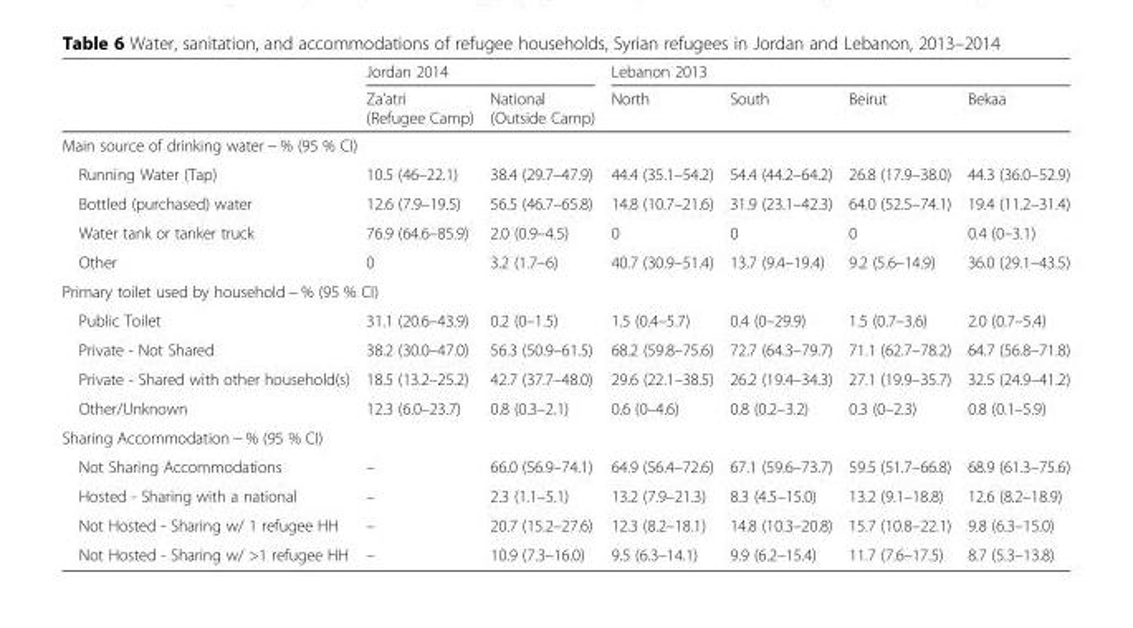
<table><thead><tr><td rowspan="2"></td><td colspan="2">Jordan 2014</td><td colspan="4">Lebanon 2013</td></tr><tr><td>Za’atri (Refugee Camp)</td><td>National (Outside Camp)</td><td>North</td><td>South</td><td>Beirut</td><td>Bekaa</td></tr></thead><tbody><tr><td colspan="7">Main source of drinking water − % (95 % CI)</td></tr><tr><td>Running Water (Tap)</td><td>10.5 (46–22.1)</td><td>38.4 (29.7–47.9)</td><td>44.4 (35.1–54.2)</td><td>54.4 (44.2–64.2)</td><td>26.8 (17.9–38.0)</td><td>44.3 (36.0–52.9)</td></tr><tr><td>Bottled (purchased) water</td><td>12.6 (7.9–19.5)</td><td>56.5 (46.7–65.8)</td><td>14.8 (10.7–21.6)</td><td>31.9 (23.1–42.3)</td><td>64.0 (52.5–74.1)</td><td>19.4 (11.2–31.4)</td></tr><tr><td>Water tank or tanker truck</td><td>76.9 (64.6–85.9)</td><td>2.0 (0.9–4.5)</td><td>0</td><td>0</td><td>0</td><td>0.4 (0–3.1)</td></tr><tr><td>Other</td><td>0</td><td>3.2 (1.7–6)</td><td>40.7 (30.9–51.4)</td><td>13.7 (9.4–19.4)</td><td>9.2 (5.6–14.9)</td><td>36.0 (29.1–43.5)</td></tr><tr><td colspan="7">Primary toilet used by household − % (95 % CI)</td></tr><tr><td>Public Toilet</td><td>31.1 (20.6–43.9)</td><td>0.2 (0–1.5)</td><td>1.5 (0.4–5.7)</td><td>0.4 (0–29.9)</td><td>1.5 (0.7–3.6)</td><td>2.0 (0.7–5.4)</td></tr><tr><td>Private - Not Shared</td><td>38.2 (30.0–47.0)</td><td>56.3 (50.9–61.5)</td><td>68.2 (59.8–75.6)</td><td>72.7 (64.3–79.7)</td><td>71.1 (62.7–78.2)</td><td>64.7 (56.8–71.8)</td></tr><tr><td>Private - Shared with other household(s)</td><td>18.5 (13.2–25.2)</td><td>42.7 (37.7–48.0)</td><td>29.6 (22.1–38.5)</td><td>26.2 (19.4–34.3)</td><td>27.1 (19.9–35.7)</td><td>32.5 (24.9–41.2)</td></tr><tr><td>Other/Unknown</td><td>12.3 (6.0–23.7)</td><td>0.8 (0.3–2.1)</td><td>0.6 (0–4.6)</td><td>0.8 (0.2–3.2)</td><td>0.3 (0–2.3)</td><td>0.8 (0.1–5.9)</td></tr><tr><td colspan="7">Sharing Accommodation − % (95 % CI)</td></tr><tr><td>Not Sharing Accommodations</td><td>–</td><td>66.0 (56.9–74.1)</td><td>64.9 (56.4–72.6)</td><td>67.1 (59.6–73.7)</td><td>59.5 (51.7–66.8)</td><td>68.9 (61.3–75.6)</td></tr><tr><td>Hosted - Sharing with a national</td><td>–</td><td>2.3 (1.1–5.1)</td><td>13.2 (7.9–21.3)</td><td>8.3 (4.5–15.0)</td><td>13.2 (9.1–18.8)</td><td>12.6 (8.2–18.9)</td></tr><tr><td>Not Hosted - Sharing w/ 1 refugee HH</td><td>–</td><td>20.7 (15.2–27.6)</td><td>12.3 (8.2–18.1)</td><td>14.8 (10.3–20.8)</td><td>15.7 (10.8–22.1)</td><td>9.8 (6.3–15.0)</td></tr><tr><td>Not Hosted - Sharing w/ &gt;1 refugee HH</td><td>–</td><td>10.9 (7.3–16.0)</td><td>9.5 (6.3–14.1)</td><td>9.9 (6.2–15.4)</td><td>11.7 (7.6–17.5)</td><td>8.7 (5.3–13.8)</td></tr></tbody></table>